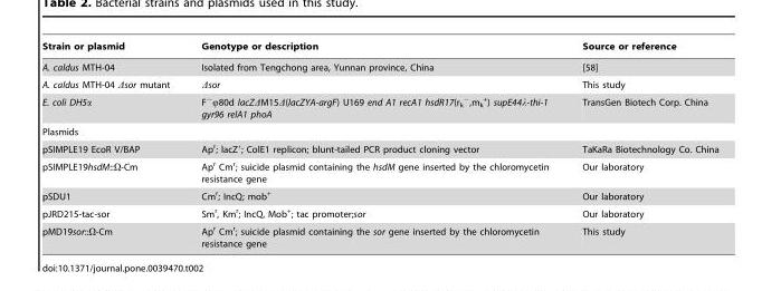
<table><thead><tr><td>Strain or plasmid</td><td>Genotype or description</td><td>Source or reference</td></tr></thead><tbody><tr><td>A. caldus MTH-04</td><td>Isolated from Tengchong area, Yunnan province, China</td><td>[58]</td></tr><tr><td>A. caldus MTH-04 Δsor mutant</td><td>Δsor</td><td>This study</td></tr><tr><td>E. coli DH5α</td><td>F<sup>−</sup>φ80d lacZΔM15Δ(lacZYA-argF) U169 end A1 recA1 hsdR17(r<sub>k</sub> <sup>−</sup>,m<sub>k</sub> <sup>+</sup>) supE44λ-thi-1 gyr96 relA1 phoA</td><td>TransGen Biotech Corp. China</td></tr><tr><td colspan="3">Plasmids</td></tr><tr><td>pSIMPLE19 EcoR V/BAP</td><td>Ap<sup>r</sup>; lacZ′; ColE1 replicon; blunt-tailed PCR product cloning vector</td><td>TaKaRa Biotechnology Co. China</td></tr><tr><td>pSIMPLE19hsdM::Ω-Cm</td><td>Ap<sup>r</sup> Cm<sup>r</sup>; suicide plasmid containing the hsdM gene inserted by the chloromycetin resistance gene</td><td>Our laboratory</td></tr><tr><td>pSDU1</td><td>Cm<sup>r</sup>; IncQ; mob<sup>+</sup></td><td>Our laboratory</td></tr><tr><td>pJRD215-tac-sor</td><td>Sm<sup>r</sup>, Km<sup>r</sup>; IncQ, Mob<sup>+</sup>; tac promoter;sor</td><td>Our laboratory</td></tr><tr><td>pMD19sor::Ω-Cm</td><td>Ap<sup>r</sup> Cm<sup>r</sup>; suicide plasmid containing the sor gene inserted by the chloromycetin resistance gene</td><td>This study</td></tr></tbody></table>